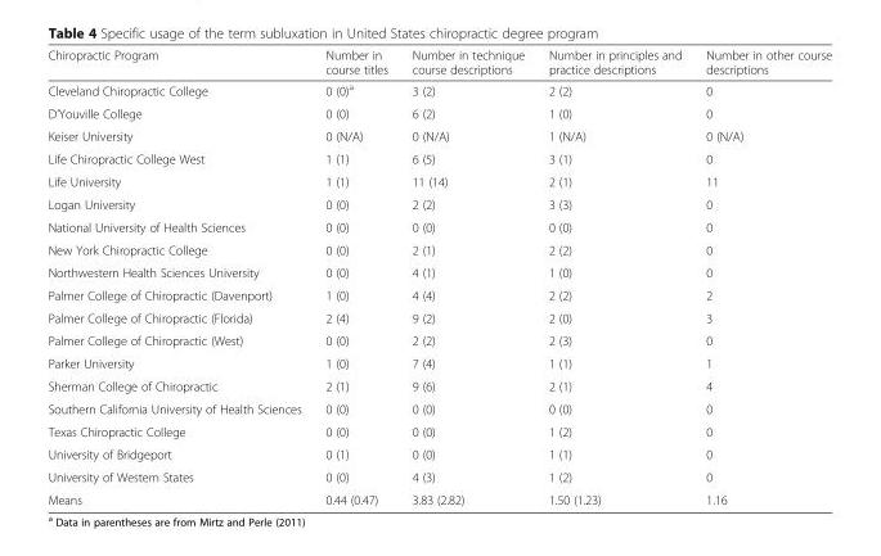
<table><thead><tr><td>Chiropractic Program</td><td>Number in course titles</td><td>Number in technique course descriptions</td><td>Number in principles and practice descriptions</td><td>Number in other course descriptions</td></tr></thead><tbody><tr><td>Cleveland Chiropractic College</td><td>0 (0)<sup>a</sup></td><td>3 (2)</td><td>2 (2)</td><td>0</td></tr><tr><td>D’Youville College</td><td>0 (0)</td><td>6 (2)</td><td>1 (0)</td><td>0</td></tr><tr><td>Keiser University</td><td>0 (N/A)</td><td>0 (N/A)</td><td>1 (N/A)</td><td>0 (N/A)</td></tr><tr><td>Life Chiropractic College West</td><td>1 (1)</td><td>6 (5)</td><td>3 (1)</td><td>0</td></tr><tr><td>Life University</td><td>1 (1)</td><td>11 (14)</td><td>2 (1)</td><td>11</td></tr><tr><td>Logan University</td><td>0 (0)</td><td>2 (2)</td><td>3 (3)</td><td>0</td></tr><tr><td>National University of Health Sciences</td><td>0 (0)</td><td>0 (0)</td><td>0 (0)</td><td>0</td></tr><tr><td>New York Chiropractic College</td><td>0 (0)</td><td>2 (1)</td><td>2 (2)</td><td>0</td></tr><tr><td>Northwestern Health Sciences University</td><td>0 (0)</td><td>4 (1)</td><td>1 (0)</td><td>0</td></tr><tr><td>Palmer College of Chiropractic (Davenport)</td><td>1 (0)</td><td>4 (4)</td><td>2 (2)</td><td>2</td></tr><tr><td>Palmer College of Chiropractic (Florida)</td><td>2 (4)</td><td>9 (2)</td><td>2 (0)</td><td>3</td></tr><tr><td>Palmer College of Chiropractic (West)</td><td>0 (0)</td><td>2 (2)</td><td>2 (3)</td><td>0</td></tr><tr><td>Parker University</td><td>1 (0)</td><td>7 (4)</td><td>1 (1)</td><td>1</td></tr><tr><td>Sherman College of Chiropractic</td><td>2 (1)</td><td>9 (6)</td><td>2 (1)</td><td>4</td></tr><tr><td>Southern California University of Health Sciences</td><td>0 (0)</td><td>0 (0)</td><td>0 (0)</td><td>0</td></tr><tr><td>Texas Chiropractic College</td><td>0 (0)</td><td>0 (0)</td><td>1 (2)</td><td>0</td></tr><tr><td>University of Bridgeport</td><td>0 (1)</td><td>0 (0)</td><td>1 (1)</td><td>0</td></tr><tr><td>University of Western States</td><td>0 (0)</td><td>4 (3)</td><td>1 (2)</td><td>0</td></tr><tr><td>Means</td><td>0.44 (0.47)</td><td>3.83 (2.82)</td><td>1.50 (1.23)</td><td>1.16</td></tr></tbody></table>